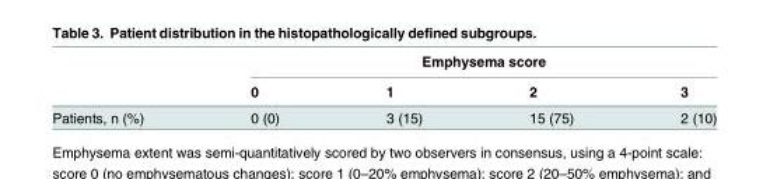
<table><thead><tr><td rowspan="2"></td><td colspan="4">Emphysema score</td></tr><tr><td>0</td><td>1</td><td>2</td><td>3</td></tr></thead><tbody><tr><td>Patients, n (%)</td><td>0 (0)</td><td>3 (15)</td><td>15 (75)</td><td>2 (10)</td></tr></tbody></table>